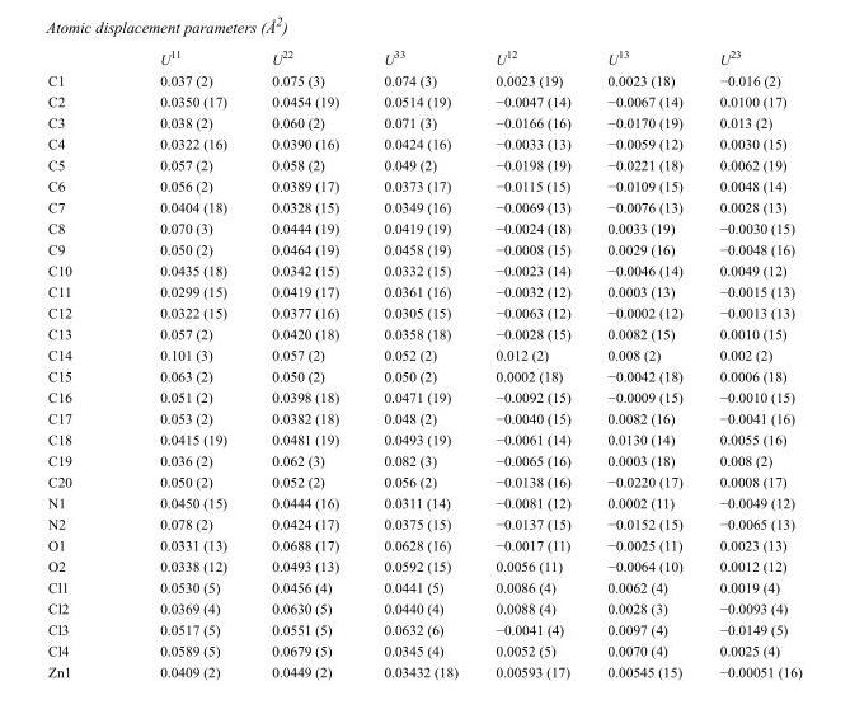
<table><thead><tr><td></td><td>U<sup>11</sup></td><td>U<sup>22</sup></td><td>U<sup>33</sup></td><td>U<sup>12</sup></td><td>U<sup>13</sup></td><td>U<sup>23</sup></td></tr></thead><tbody><tr><td>C1</td><td>0.037 (2)</td><td>0.075 (3)</td><td>0.074 (3)</td><td>0.0023 (19)</td><td>0.0023 (18)</td><td>−0.016 (2)</td></tr><tr><td>C2</td><td>0.0350 (17)</td><td>0.0454 (19)</td><td>0.0514 (19)</td><td>−0.0047 (14)</td><td>−0.0067 (14)</td><td>0.0100 (17)</td></tr><tr><td>C3</td><td>0.038 (2)</td><td>0.060 (2)</td><td>0.071 (3)</td><td>−0.0166 (16)</td><td>−0.0170 (19)</td><td>0.013 (2)</td></tr><tr><td>C4</td><td>0.0322 (16)</td><td>0.0390 (16)</td><td>0.0424 (16)</td><td>−0.0033 (13)</td><td>−0.0059 (12)</td><td>0.0030 (15)</td></tr><tr><td>C5</td><td>0.057 (2)</td><td>0.058 (2)</td><td>0.049 (2)</td><td>−0.0198 (19)</td><td>−0.0221 (18)</td><td>0.0062 (19)</td></tr><tr><td>C6</td><td>0.056 (2)</td><td>0.0389 (17)</td><td>0.0373 (17)</td><td>−0.0115 (15)</td><td>−0.0109 (15)</td><td>0.0048 (14)</td></tr><tr><td>C7</td><td>0.0404 (18)</td><td>0.0328 (15)</td><td>0.0349 (16)</td><td>−0.0069 (13)</td><td>−0.0076 (13)</td><td>0.0028 (13)</td></tr><tr><td>C8</td><td>0.070 (3)</td><td>0.0444 (19)</td><td>0.0419 (19)</td><td>−0.0024 (18)</td><td>0.0033 (19)</td><td>−0.0030 (15)</td></tr><tr><td>C9</td><td>0.050 (2)</td><td>0.0464 (19)</td><td>0.0458 (19)</td><td>−0.0008 (15)</td><td>0.0029 (16)</td><td>−0.0048 (16)</td></tr><tr><td>C10</td><td>0.0435 (18)</td><td>0.0342 (15)</td><td>0.0332 (15)</td><td>−0.0023 (14)</td><td>−0.0046 (14)</td><td>0.0049 (12)</td></tr><tr><td>C11</td><td>0.0299 (15)</td><td>0.0419 (17)</td><td>0.0361 (16)</td><td>−0.0032 (12)</td><td>0.0003 (13)</td><td>−0.0015 (13)</td></tr><tr><td>C12</td><td>0.0322 (15)</td><td>0.0377 (16)</td><td>0.0305 (15)</td><td>−0.0063 (12)</td><td>−0.0002 (12)</td><td>−0.0013 (13)</td></tr><tr><td>C13</td><td>0.057 (2)</td><td>0.0420 (18)</td><td>0.0358 (18)</td><td>−0.0028 (15)</td><td>0.0082 (15)</td><td>0.0010 (15)</td></tr><tr><td>C14</td><td>0.101 (3)</td><td>0.057 (2)</td><td>0.052 (2)</td><td>0.012 (2)</td><td>0.008 (2)</td><td>0.002 (2)</td></tr><tr><td>C15</td><td>0.063 (2)</td><td>0.050 (2)</td><td>0.050 (2)</td><td>0.0002 (18)</td><td>−0.0042 (18)</td><td>0.0006 (18)</td></tr><tr><td>C16</td><td>0.051 (2)</td><td>0.0398 (18)</td><td>0.0471 (19)</td><td>−0.0092 (15)</td><td>−0.0009 (15)</td><td>−0.0010 (15)</td></tr><tr><td>C17</td><td>0.053 (2)</td><td>0.0382 (18)</td><td>0.048 (2)</td><td>−0.0040 (15)</td><td>0.0082 (16)</td><td>−0.0041 (16)</td></tr><tr><td>C18</td><td>0.0415 (19)</td><td>0.0481 (19)</td><td>0.0493 (19)</td><td>−0.0061 (14)</td><td>0.0130 (14)</td><td>0.0055 (16)</td></tr><tr><td>C19</td><td>0.036 (2)</td><td>0.062 (3)</td><td>0.082 (3)</td><td>−0.0065 (16)</td><td>0.0003 (18)</td><td>0.008 (2)</td></tr><tr><td>C20</td><td>0.050 (2)</td><td>0.052 (2)</td><td>0.056 (2)</td><td>−0.0138 (16)</td><td>−0.0220 (17)</td><td>0.0008 (17)</td></tr><tr><td>N1</td><td>0.0450 (15)</td><td>0.0444 (16)</td><td>0.0311 (14)</td><td>−0.0081 (12)</td><td>0.0002 (11)</td><td>−0.0049 (12)</td></tr><tr><td>N2</td><td>0.078 (2)</td><td>0.0424 (17)</td><td>0.0375 (15)</td><td>−0.0137 (15)</td><td>−0.0152 (15)</td><td>−0.0065 (13)</td></tr><tr><td>O1</td><td>0.0331 (13)</td><td>0.0688 (17)</td><td>0.0628 (16)</td><td>−0.0017 (11)</td><td>−0.0025 (11)</td><td>0.0023 (13)</td></tr><tr><td>O2</td><td>0.0338 (12)</td><td>0.0493 (13)</td><td>0.0592 (15)</td><td>0.0056 (11)</td><td>−0.0064 (10)</td><td>0.0012 (12)</td></tr><tr><td>Cl1</td><td>0.0530 (5)</td><td>0.0456 (4)</td><td>0.0441 (5)</td><td>0.0086 (4)</td><td>0.0062 (4)</td><td>0.0019 (4)</td></tr><tr><td>Cl2</td><td>0.0369 (4)</td><td>0.0630 (5)</td><td>0.0440 (4)</td><td>0.0088 (4)</td><td>0.0028 (3)</td><td>−0.0093 (4)</td></tr><tr><td>Cl3</td><td>0.0517 (5)</td><td>0.0551 (5)</td><td>0.0632 (6)</td><td>−0.0041 (4)</td><td>0.0097 (4)</td><td>−0.0149 (5)</td></tr><tr><td>Cl4</td><td>0.0589 (5)</td><td>0.0679 (5)</td><td>0.0345 (4)</td><td>0.0052 (5)</td><td>0.0070 (4)</td><td>0.0025 (4)</td></tr><tr><td>Zn1</td><td>0.0409 (2)</td><td>0.0449 (2)</td><td>0.03432 (18)</td><td>0.00593 (17)</td><td>0.00545 (15)</td><td>−0.00051 (16)</td></tr></tbody></table>